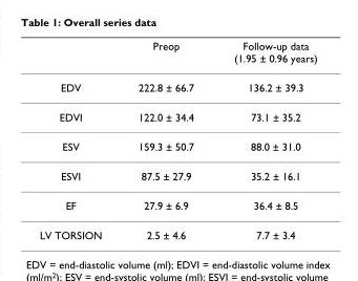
<table><thead><tr><td></td><td>Preop</td><td>Follow-up data (1.95 ± 0.96 years)</td></tr></thead><tbody><tr><td>EDV</td><td>222.8 ± 66.7</td><td>136.2 ± 39.3</td></tr><tr><td>EDVI</td><td>122.0 ± 34.4</td><td>73.1 ± 35.2</td></tr><tr><td>ESV</td><td>159.3 ± 50.7</td><td>88.0 ± 31.0</td></tr><tr><td>ESVI</td><td>87.5 ± 27.9</td><td>35.2 ± 16.1</td></tr><tr><td>EF</td><td>27.9 ± 6.9</td><td>36.4 ± 8.5</td></tr><tr><td>LV TORSION</td><td>2.5 ± 4.6</td><td>7.7 ± 3.4</td></tr></tbody></table>